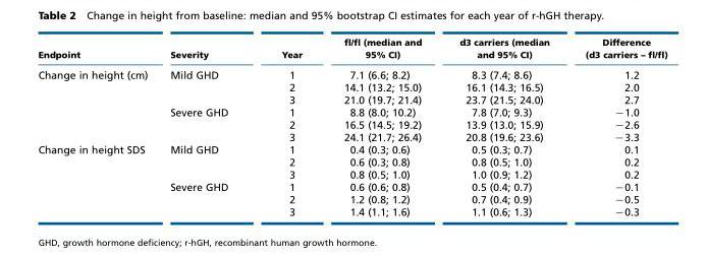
<table><thead><tr><td>Endpoint</td><td>Severity</td><td>Year</td><td>fl/fl (median and 95% CI)</td><td>d3 carriers (median and 95% CI)</td><td>Difference (d3 carriers – fl/fl)</td></tr></thead><tbody><tr><td rowspan="6">Change in height (cm)</td><td>Mild GHD</td><td>1</td><td>7.1 (6.6; 8.2)</td><td>8.3 (7.4; 8.6)</td><td>1.2</td></tr><tr><td></td><td>2</td><td>14.1 (13.2; 15.0)</td><td>16.1 (14.3; 16.5)</td><td>2.0</td></tr><tr><td></td><td>3</td><td>21.0 (19.7; 21.4)</td><td>23.7 (21.5; 24.0)</td><td>2.7</td></tr><tr><td>Severe GHD</td><td>1</td><td>8.8 (8.0; 10.2)</td><td>7.8 (7.0; 9.3)</td><td>−1.0</td></tr><tr><td></td><td>2</td><td>16.5 (14.5; 19.2)</td><td>13.9 (13.0; 15.9)</td><td>−2.6</td></tr><tr><td></td><td>3</td><td>24.1 (21.7; 26.4)</td><td>20.8 (19.6; 23.6)</td><td>−3.3</td></tr><tr><td rowspan="6">Change in height SDS</td><td>Mild GHD</td><td>1</td><td>0.4 (0.3; 0.6)</td><td>0.5 (0.3; 0.7)</td><td>0.1</td></tr><tr><td></td><td>2</td><td>0.6 (0.3; 0.8)</td><td>0.8 (0.5; 1.0)</td><td>0.2</td></tr><tr><td></td><td>3</td><td>0.8 (0.5; 1.0)</td><td>1.0 (0.9; 1.2)</td><td>0.2</td></tr><tr><td>Severe GHD</td><td>1</td><td>0.6 (0.6; 0.8)</td><td>0.5 (0.4; 0.7)</td><td>−0.1</td></tr><tr><td></td><td>2</td><td>1.2 (0.8; 1.2)</td><td>0.7 (0.4; 0.9)</td><td>−0.5</td></tr><tr><td></td><td>3</td><td>1.4 (1.1; 1.6)</td><td>1.1 (0.6; 1.3)</td><td>−0.3</td></tr></tbody></table>